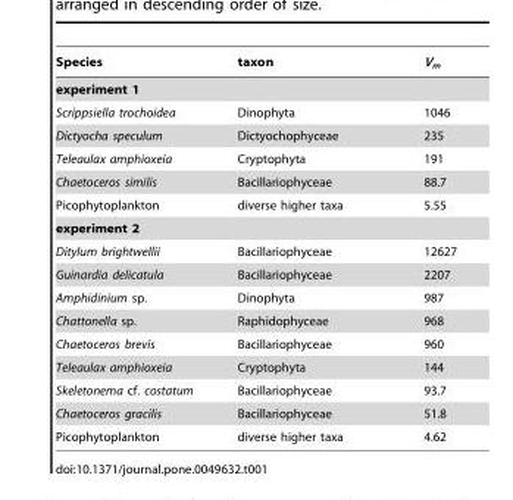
<table><thead><tr><td>Species</td><td>taxon</td><td>V<sub>m</sub></td></tr></thead><tbody><tr><td colspan="3">experiment 1</td></tr><tr><td>Scrippsiella trochoidea</td><td>Dinophyta</td><td>1046</td></tr><tr><td>Dictyocha speculum</td><td>Dictyochophyceae</td><td>235</td></tr><tr><td>Teleaulax amphioxeia</td><td>Cryptophyta</td><td>191</td></tr><tr><td>Chaetoceros similis</td><td>Bacillariophyceae</td><td>88.7</td></tr><tr><td>Picophytoplankton</td><td>diverse higher taxa</td><td>5.55</td></tr><tr><td colspan="3">experiment 2</td></tr><tr><td>Ditylum brightwellii</td><td>Bacillariophyceae</td><td>12627</td></tr><tr><td>Guinardia delicatula</td><td>Bacillariophyceae</td><td>2207</td></tr><tr><td>Amphidinium sp.</td><td>Dinophyta</td><td>987</td></tr><tr><td>Chattonella sp.</td><td>Raphidophyceae</td><td>968</td></tr><tr><td>Chaetoceros brevis</td><td>Bacillariophyceae</td><td>960</td></tr><tr><td>Teleaulax amphioxeia</td><td>Cryptophyta</td><td>144</td></tr><tr><td>Skeletonema cf. costatum</td><td>Bacillariophyceae</td><td>93.7</td></tr><tr><td>Chaetoceros gracilis</td><td>Bacillariophyceae</td><td>51.8</td></tr><tr><td>Picophytoplankton</td><td>diverse higher taxa</td><td>4.62</td></tr></tbody></table>